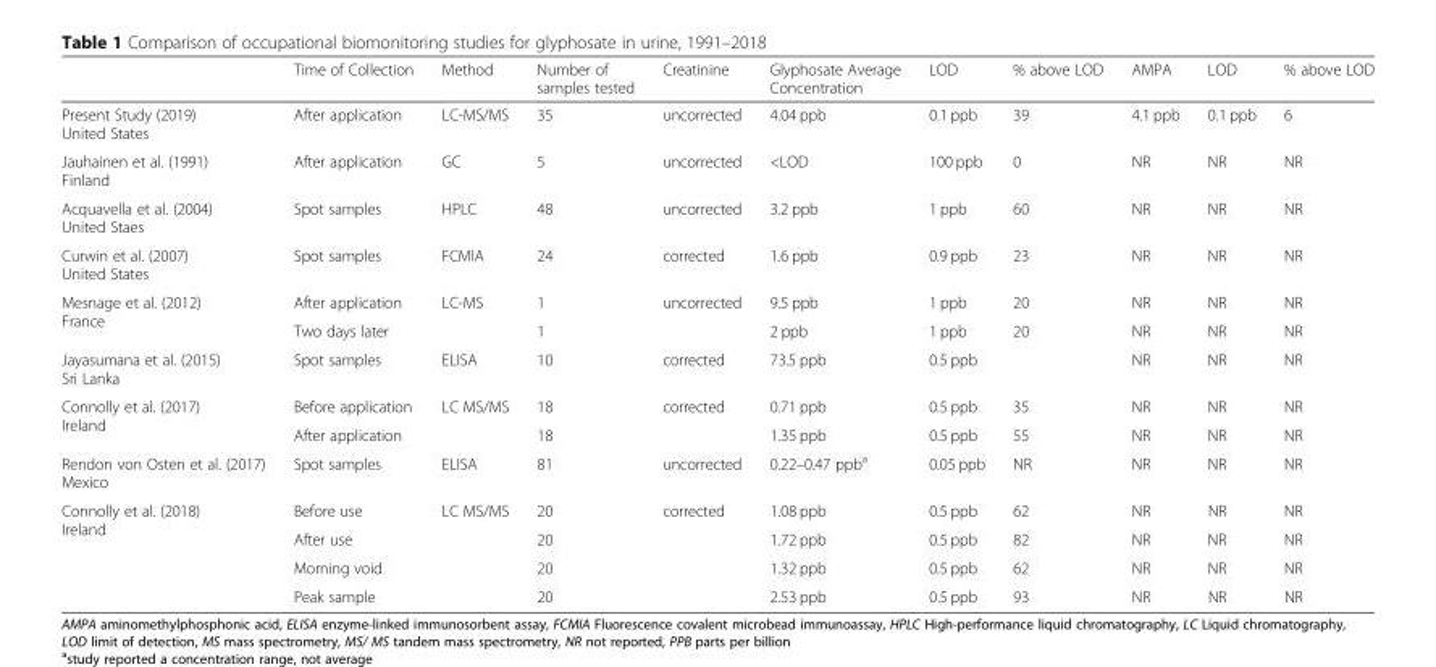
<table><thead><tr><td></td><td>Time of Collection</td><td>Method</td><td>Number of samples tested</td><td>Creatinine</td><td>Glyphosate Average Concentration</td><td>LOD</td><td>% above LOD</td><td>AMPA</td><td>LOD</td><td>% above LOD</td></tr></thead><tbody><tr><td>Present Study (2019) United States</td><td>After application</td><td>LC-MS/MS</td><td>35</td><td>uncorrected</td><td>4.04 ppb</td><td>0.1 ppb</td><td>39</td><td>4.1 ppb</td><td>0.1 ppb</td><td>6</td></tr><tr><td>Jauhainen et al. (1991) Finland</td><td>After application</td><td>GC</td><td>5</td><td>uncorrected</td><td>&lt;LOD</td><td>100 ppb</td><td>0</td><td>NR</td><td>NR</td><td>NR</td></tr><tr><td>Acquavella et al. (2004) United Staes</td><td>Spot samples</td><td>HPLC</td><td>48</td><td>uncorrected</td><td>3.2 ppb</td><td>1 ppb</td><td>60</td><td>NR</td><td>NR</td><td>NR</td></tr><tr><td>Curwin et al. (2007) United States</td><td>Spot samples</td><td>FCMIA</td><td>24</td><td>corrected</td><td>1.6 ppb</td><td>0.9 ppb</td><td>23</td><td>NR</td><td>NR</td><td>NR</td></tr><tr><td rowspan="2">Mesnage et al. (2012) France</td><td>After application</td><td rowspan="2">LC-MS</td><td>1</td><td rowspan="2">uncorrected</td><td>9.5 ppb</td><td>1 ppb</td><td>20</td><td>NR</td><td>NR</td><td>NR</td></tr><tr><td>Two days later</td><td>1</td><td>2 ppb</td><td>1 ppb</td><td>20</td><td>NR</td><td>NR</td><td>NR</td></tr><tr><td>Jayasumana et al. (2015) Sri Lanka</td><td>Spot samples</td><td>ELISA</td><td>10</td><td>corrected</td><td>73.5 ppb</td><td>0.5 ppb</td><td></td><td>NR</td><td>NR</td><td>NR</td></tr><tr><td rowspan="2">Connolly et al. (2017) Ireland</td><td>Before application</td><td rowspan="2">LC MS/MS</td><td>18</td><td rowspan="2">corrected</td><td>0.71 ppb</td><td>0.5 ppb</td><td>35</td><td>NR</td><td>NR</td><td>NR</td></tr><tr><td>After application</td><td>18</td><td>1.35 ppb</td><td>0.5 ppb</td><td>55</td><td>NR</td><td>NR</td><td>NR</td></tr><tr><td>Rendon von Osten et al. (2017) Mexico</td><td>Spot samples</td><td>ELISA</td><td>81</td><td>uncorrected</td><td>0.22–0.47 ppb<sup>a</sup></td><td>0.05 ppb</td><td>NR</td><td>NR</td><td>NR</td><td>NR</td></tr><tr><td rowspan="4">Connolly et al. (2018) Ireland</td><td>Before use</td><td rowspan="4">LC MS/MS</td><td>20</td><td rowspan="4">corrected</td><td>1.08 ppb</td><td>0.5 ppb</td><td>62</td><td>NR</td><td>NR</td><td>NR</td></tr><tr><td>After use</td><td>20</td><td>1.72 ppb</td><td>0.5 ppb</td><td>82</td><td>NR</td><td>NR</td><td>NR</td></tr><tr><td>Morning void</td><td>20</td><td>1.32 ppb</td><td>0.5 ppb</td><td>62</td><td>NR</td><td>NR</td><td>NR</td></tr><tr><td>Peak sample</td><td>20</td><td>2.53 ppb</td><td>0.5 ppb</td><td>93</td><td>NR</td><td>NR</td><td>NR</td></tr></tbody></table>